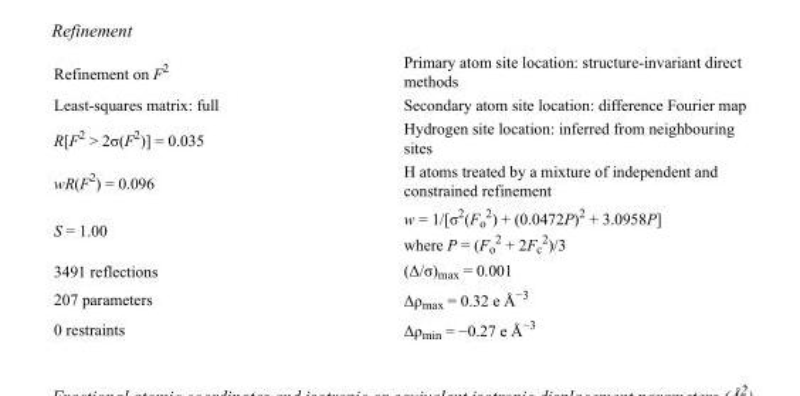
<table><tbody><tr><td>Refinement on F<sup>2</sup></td><td>Primary atom site location: structure-invariant direct methods</td></tr><tr><td>Least-squares matrix: full</td><td>Secondary atom site location: difference Fourier map</td></tr><tr><td>R[F<sup>2</sup> &gt; 2σ(F<sup>2</sup>)] = 0.035</td><td>Hydrogen site location: inferred from neighbouring sites</td></tr><tr><td>wR(F<sup>2</sup>) = 0.096</td><td>H atoms treated by a mixture of independent and constrained refinement</td></tr><tr><td>S = 1.00</td><td>w = 1/[σ<sup>2</sup>(F<sub>o</sub> <sup>2</sup>) + (0.0472P)<sup>2</sup> + 3.0958P] where P = (F<sub>o</sub> <sup>2</sup> + 2F<sub>c</sub> <sup>2</sup>)/3</td></tr><tr><td>3491 reflections</td><td>(Δ/σ)<sub>max</sub> = 0.001</td></tr><tr><td>207 parameters</td><td>Δρ<sub>max</sub> = 0.32 e Å<sup>−3</sup></td></tr><tr><td>0 restraints</td><td>Δρ<sub>min</sub> = −0.27 e Å<sup>−3</sup></td></tr></tbody></table>